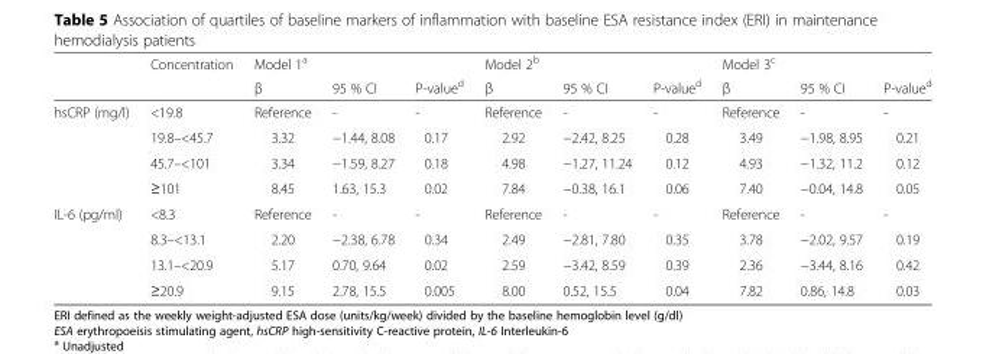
<table><thead><tr><td rowspan="2"></td><td rowspan="2">Concentration</td><td colspan="3">Model 1<sup>a</sup></td><td colspan="3">Model 2<sup>b</sup></td><td colspan="3">Model 3<sup>c</sup></td></tr><tr><td>β</td><td>95 % CI</td><td>P-value<sup>d</sup></td><td>β</td><td>95 % CI</td><td>P-value<sup>d</sup></td><td>β</td><td>95 % CI</td><td>P-value<sup>d</sup></td></tr></thead><tbody><tr><td rowspan="4">hsCRP (mg/l)</td><td>&lt;19.8</td><td>Reference</td><td>-</td><td>-</td><td>Reference</td><td>-</td><td>-</td><td>Reference</td><td>-</td><td>-</td></tr><tr><td>19.8–&lt;45.7</td><td>3.32</td><td>−1.44, 8.08</td><td>0.17</td><td>2.92</td><td>−2.42, 8.25</td><td>0.28</td><td>3.49</td><td>−1.98, 8.95</td><td>0.21</td></tr><tr><td>45.7–&lt;101</td><td>3.34</td><td>−1.59, 8.27</td><td>0.18</td><td>4.98</td><td>−1.27, 11.24</td><td>0.12</td><td>4.93</td><td>−1.32, 11.2</td><td>0.12</td></tr><tr><td>≥101</td><td>8.45</td><td>1.63, 15.3</td><td>0.02</td><td>7.84</td><td>−0.38, 16.1</td><td>0.06</td><td>7.40</td><td>−0.04, 14.8</td><td>0.05</td></tr><tr><td rowspan="4">IL-6 (pg/ml)</td><td>&lt;8.3</td><td>Reference</td><td>-</td><td>-</td><td>Reference</td><td>-</td><td>-</td><td>Reference</td><td>-</td><td>-</td></tr><tr><td>8.3–&lt;13.1</td><td>2.20</td><td>−2.38, 6.78</td><td>0.34</td><td>2.49</td><td>−2.81, 7.80</td><td>0.35</td><td>3.78</td><td>−2.02, 9.57</td><td>0.19</td></tr><tr><td>13.1–&lt;20.9</td><td>5.17</td><td>0.70, 9.64</td><td>0.02</td><td>2.59</td><td>−3.42, 8.59</td><td>0.39</td><td>2.36</td><td>−3.44, 8.16</td><td>0.42</td></tr><tr><td>≥20.9</td><td>9.15</td><td>2.78, 15.5</td><td>0.005</td><td>8.00</td><td>0.52, 15.5</td><td>0.04</td><td>7.82</td><td>0.86, 14.8</td><td>0.03</td></tr></tbody></table>